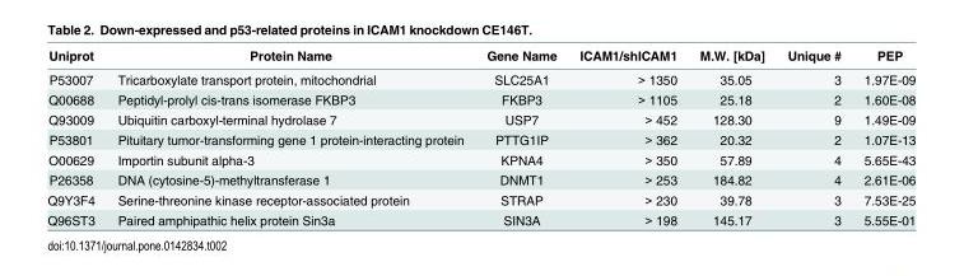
<table><thead><tr><td>Uniprot</td><td>Protein Name</td><td>Gene Name</td><td>ICAM1/shICAM1</td><td>M.W. [kDa]</td><td>Unique #</td><td>PEP</td></tr></thead><tbody><tr><td>P53007</td><td>Tricarboxylate transport protein, mitochondrial</td><td>SLC25A1</td><td>&gt; 1350</td><td>35.05</td><td>3</td><td>1.97E-09</td></tr><tr><td>Q00688</td><td>Peptidyl-prolyl cis-trans isomerase FKBP3</td><td>FKBP3</td><td>&gt; 1105</td><td>25.18</td><td>2</td><td>1.60E-08</td></tr><tr><td>Q93009</td><td>Ubiquitin carboxyl-terminal hydrolase 7</td><td>USP7</td><td>&gt; 452</td><td>128.30</td><td>9</td><td>1.49E-09</td></tr><tr><td>P53801</td><td>Pituitary tumor-transforming gene 1 protein-interacting protein</td><td>PTTG1IP</td><td>&gt; 362</td><td>20.32</td><td>2</td><td>1.07E-13</td></tr><tr><td>O00629</td><td>Importin subunit alpha-3</td><td>KPNA4</td><td>&gt; 350</td><td>57.89</td><td>4</td><td>5.65E-43</td></tr><tr><td>P26358</td><td>DNA (cytosine-5)-methyltransferase 1</td><td>DNMT1</td><td>&gt; 253</td><td>184.82</td><td>4</td><td>2.61E-06</td></tr><tr><td>Q9Y3F4</td><td>Serine-threonine kinase receptor-associated protein</td><td>STRAP</td><td>&gt; 230</td><td>39.78</td><td>3</td><td>7.53E-25</td></tr><tr><td>Q96ST3</td><td>Paired amphipathic helix protein Sin3a</td><td>SIN3A</td><td>&gt; 198</td><td>145.17</td><td>3</td><td>5.55E-01</td></tr></tbody></table>